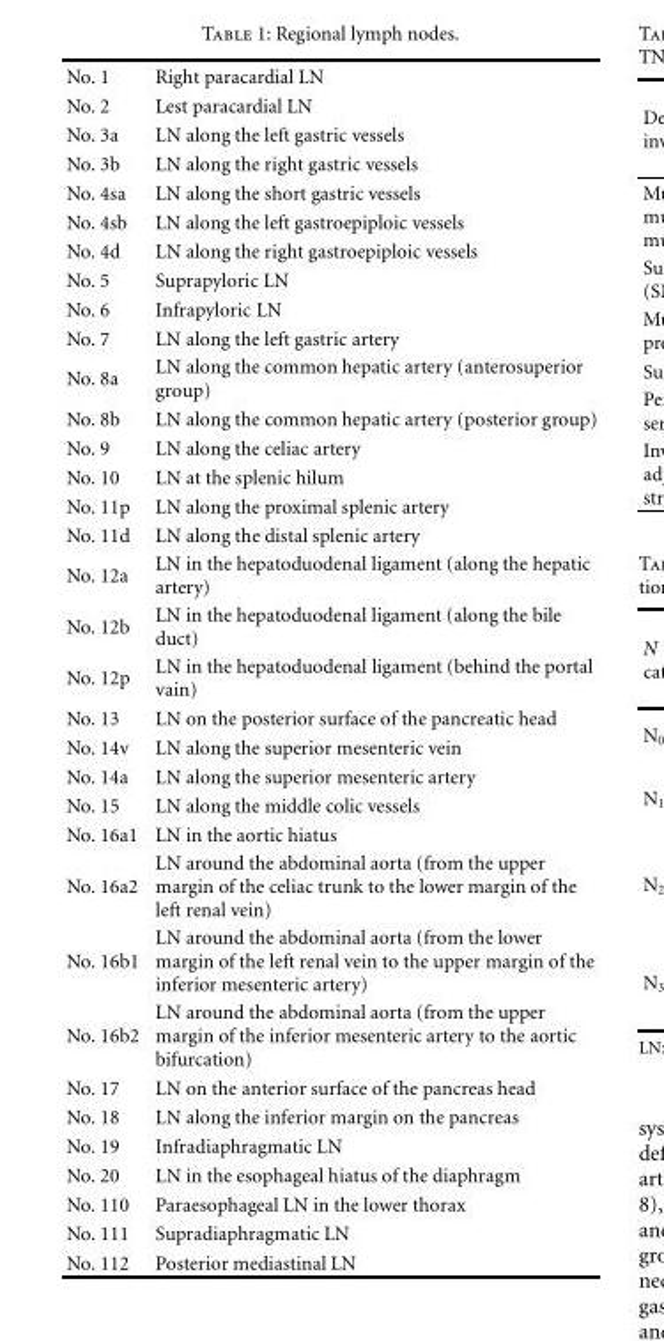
<table><tbody><tr><td>No. 1</td><td>Right paracardial LN</td></tr><tr><td>No. 2</td><td>Lest paracardial LN</td></tr><tr><td>No. 3a</td><td>LN along the left gastric vessels</td></tr><tr><td>No. 3b</td><td>LN along the right gastric vessels</td></tr><tr><td>No. 4sa</td><td>LN along the short gastric vessels</td></tr><tr><td>No. 4sb</td><td>LN along the left gastroepiploic vessels</td></tr><tr><td>No. 4d</td><td>LN along the right gastroepiploic vessels</td></tr><tr><td>No. 5</td><td>Suprapyloric LN</td></tr><tr><td>No. 6</td><td>Infrapyloric LN</td></tr><tr><td>No. 7</td><td>LN along the left gastric artery</td></tr><tr><td>No. 8a</td><td>LN along the common hepatic artery (anterosuperior group)</td></tr><tr><td>No. 8b</td><td>LN along the common hepatic artery (posterior group)</td></tr><tr><td>No. 9</td><td>LN along the celiac artery</td></tr><tr><td>No. 10</td><td>LN at the splenic hilum</td></tr><tr><td>No. 11p</td><td>LN along the proximal splenic artery</td></tr><tr><td>No. 11d</td><td>LN along the distal splenic artery</td></tr><tr><td>No. 12a</td><td>LN in the hepatoduodenal ligament (along the hepatic artery)</td></tr><tr><td>No. 12b</td><td>LN in the hepatoduodenal ligament (along the bile duct)</td></tr><tr><td>No. 12p</td><td>LN in the hepatoduodenal ligament (behind the portal vain)</td></tr><tr><td>No. 13</td><td>LN on the posterior surface of the pancreatic head</td></tr><tr><td>No. 14v</td><td>LN along the superior mesenteric vein</td></tr><tr><td>No. 14a</td><td>LN along the superior mesenteric artery</td></tr><tr><td>No. 15</td><td>LN along the middle colic vessels</td></tr><tr><td>No. 16a1</td><td>LN in the aortic hiatus</td></tr><tr><td>No. 16a2</td><td>LN around the abdominal aorta (from the upper margin of the celiac trunk to the lower margin of the left renal vein)</td></tr><tr><td>No. 16b1</td><td>LN around the abdominal aorta (from the lower margin of the left renal vein to the upper margin of the inferior mesenteric artery)</td></tr><tr><td>No. 16b2</td><td>LN around the abdominal aorta (from the upper margin of the inferior mesenteric artery to the aortic bifurcation)</td></tr><tr><td>No. 17</td><td>LN on the anterior surface of the pancreas head</td></tr><tr><td>No. 18</td><td>LN along the inferior margin on the pancreas</td></tr><tr><td>No. 19</td><td>Infradiaphragmatic LN</td></tr><tr><td>No. 20</td><td>LN in the esophageal hiatus of the diaphragm</td></tr><tr><td>No. 110</td><td>Paraesophageal LN in the lower thorax</td></tr><tr><td>No. 111</td><td>Supradiaphragmatic LN</td></tr><tr><td>No. 112</td><td>Posterior mediastinal LN</td></tr></tbody></table>